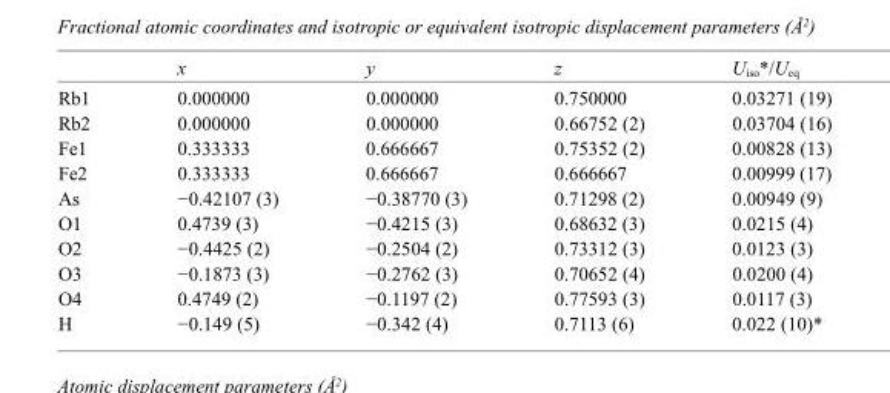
<table><thead><tr><td></td><td>x</td><td>y</td><td>z</td><td>U<sub>iso</sub>*/U<sub>eq</sub></td></tr></thead><tbody><tr><td>Rb1</td><td>0.000000</td><td>0.000000</td><td>0.750000</td><td>0.03271 (19)</td></tr><tr><td>Rb2</td><td>0.000000</td><td>0.000000</td><td>0.66752 (2)</td><td>0.03704 (16)</td></tr><tr><td>Fe1</td><td>0.333333</td><td>0.666667</td><td>0.75352 (2)</td><td>0.00828 (13)</td></tr><tr><td>Fe2</td><td>0.333333</td><td>0.666667</td><td>0.666667</td><td>0.00999 (17)</td></tr><tr><td>As</td><td>−0.42107 (3)</td><td>−0.38770 (3)</td><td>0.71298 (2)</td><td>0.00949 (9)</td></tr><tr><td>O1</td><td>0.4739 (3)</td><td>−0.4215 (3)</td><td>0.68632 (3)</td><td>0.0215 (4)</td></tr><tr><td>O2</td><td>−0.4425 (2)</td><td>−0.2504 (2)</td><td>0.73312 (3)</td><td>0.0123 (3)</td></tr><tr><td>O3</td><td>−0.1873 (3)</td><td>−0.2762 (3)</td><td>0.70652 (4)</td><td>0.0200 (4)</td></tr><tr><td>O4</td><td>0.4749 (2)</td><td>−0.1197 (2)</td><td>0.77593 (3)</td><td>0.0117 (3)</td></tr><tr><td>H</td><td>−0.149 (5)</td><td>−0.342 (4)</td><td>0.7113 (6)</td><td>0.022 (10)*</td></tr></tbody></table>